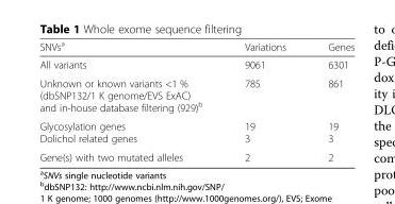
<table><thead><tr><td>SNVs<sup>a</sup></td><td>Variations</td><td>Genes</td></tr></thead><tbody><tr><td>All variants</td><td>9061</td><td>6301</td></tr><tr><td>Unknown or known variants &lt;1 % (dbSNP132/1 K genome/EVS ExAC) and in-house database filtering (929)<sup>b</sup></td><td>785</td><td>861</td></tr><tr><td>Glycosylation genes Dolichol related genes</td><td>19 3</td><td>19 3</td></tr><tr><td>Gene(s) with two mutated alleles</td><td>2</td><td>2</td></tr></tbody></table>